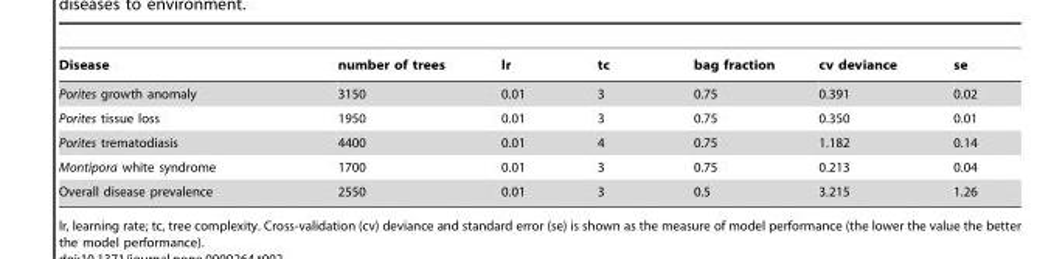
<table><thead><tr><td>Disease</td><td>number of trees</td><td>lr</td><td>tc</td><td>bag fraction</td><td>cv deviance</td><td>se</td></tr></thead><tbody><tr><td>Porites growth anomaly</td><td>3150</td><td>0.01</td><td>3</td><td>0.75</td><td>0.391</td><td>0.02</td></tr><tr><td>Porites tissue loss</td><td>1950</td><td>0.01</td><td>3</td><td>0.75</td><td>0.350</td><td>0.01</td></tr><tr><td>Porites trematodiasis</td><td>4400</td><td>0.01</td><td>4</td><td>0.75</td><td>1.182</td><td>0.14</td></tr><tr><td>Montipora white syndrome</td><td>1700</td><td>0.01</td><td>3</td><td>0.75</td><td>0.213</td><td>0.04</td></tr><tr><td>Overall disease prevalence</td><td>2550</td><td>0.01</td><td>3</td><td>0.5</td><td>3.215</td><td>1.26</td></tr></tbody></table>